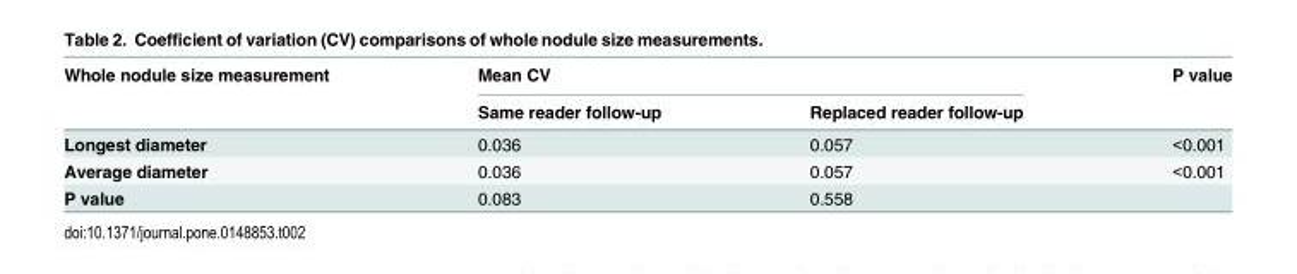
<table><thead><tr><td rowspan="2">Whole nodule size measurement</td><td colspan="2">Mean CV</td><td rowspan="2">P value</td></tr><tr><td>Same reader follow-up</td><td>Replaced reader follow-up</td></tr></thead><tbody><tr><td>Longest diameter</td><td>0.036</td><td>0.057</td><td>&lt;0.001</td></tr><tr><td>Average diameter</td><td>0.036</td><td>0.057</td><td>&lt;0.001</td></tr><tr><td>P value</td><td>0.083</td><td>0.558</td><td></td></tr></tbody></table>